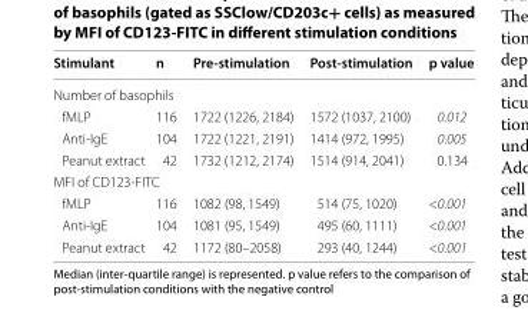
<table><thead><tr><td>Stimulant</td><td>n</td><td>Pre‑stimulation</td><td>Post‑stimulation</td><td>p value</td></tr></thead><tbody><tr><td colspan="5">Number of basophils</td></tr><tr><td>fMLP</td><td>116</td><td>1722 (1226, 2184)</td><td>1572 (1037, 2100)</td><td>0.012</td></tr><tr><td>Anti-IgE</td><td>104</td><td>1722 (1221, 2191)</td><td>1414 (972, 1995)</td><td>0.005</td></tr><tr><td>Peanut extract</td><td>42</td><td>1732 (1212, 2174)</td><td>1514 (914, 2041)</td><td>0.134</td></tr><tr><td colspan="5">MFI of CD123-FITC</td></tr><tr><td>fMLP</td><td>116</td><td>1082 (98, 1549)</td><td>514 (75, 1020)</td><td>&lt;0.001</td></tr><tr><td>Anti-IgE</td><td>104</td><td>1081 (95, 1549)</td><td>495 (60, 1111)</td><td>&lt;0.001</td></tr><tr><td>Peanut extract</td><td>42</td><td>1172 (80–2058)</td><td>293 (40, 1244)</td><td>&lt;0.001</td></tr></tbody></table>